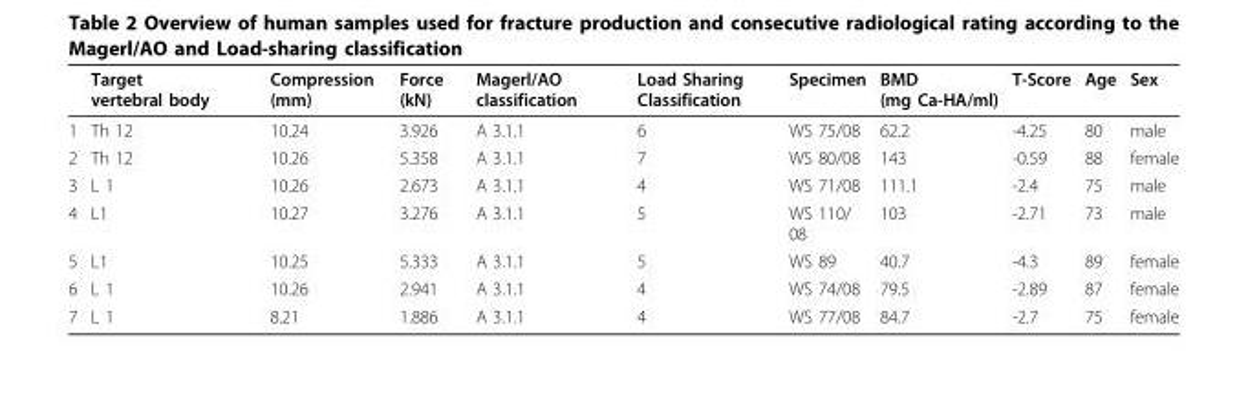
<table><thead><tr><td></td><td>Target vertebral body</td><td>Compression (mm)</td><td>Force (kN)</td><td>Magerl/AO classification</td><td>Load Sharing Classification</td><td>Specimen</td><td>BMD (mg Ca-HA/ml)</td><td>T-Score</td><td>Age</td><td>Sex</td></tr></thead><tbody><tr><td>1</td><td>Th 12</td><td>10.24</td><td>3.926</td><td>A 3.1.1</td><td>6</td><td>WS 75/08</td><td>62.2</td><td>-4.25</td><td>80</td><td>male</td></tr><tr><td>2</td><td>Th 12</td><td>10.26</td><td>5.358</td><td>A 3.1.1</td><td>7</td><td>WS 80/08</td><td>143</td><td>-0.59</td><td>88</td><td>female</td></tr><tr><td>3</td><td>L 1</td><td>10.26</td><td>2.673</td><td>A 3.1.1</td><td>4</td><td>WS 71/08</td><td>111.1</td><td>-2.4</td><td>75</td><td>male</td></tr><tr><td>4</td><td>L1</td><td>10.27</td><td>3.276</td><td>A 3.1.1</td><td>5</td><td>WS 110/ 08</td><td>103</td><td>-2.71</td><td>73</td><td>male</td></tr><tr><td>5</td><td>L1</td><td>10.25</td><td>5.333</td><td>A 3.1.1</td><td>5</td><td>WS 89</td><td>40.7</td><td>-4.3</td><td>89</td><td>female</td></tr><tr><td>6</td><td>L 1</td><td>10.26</td><td>2.941</td><td>A 3.1.1</td><td>4</td><td>WS 74/08</td><td>79.5</td><td>-2.89</td><td>87</td><td>female</td></tr><tr><td>7</td><td>L 1</td><td>8.21</td><td>1.886</td><td>A 3.1.1</td><td>4</td><td>WS 77/08</td><td>84.7</td><td>-2.7</td><td>75</td><td>female</td></tr></tbody></table>